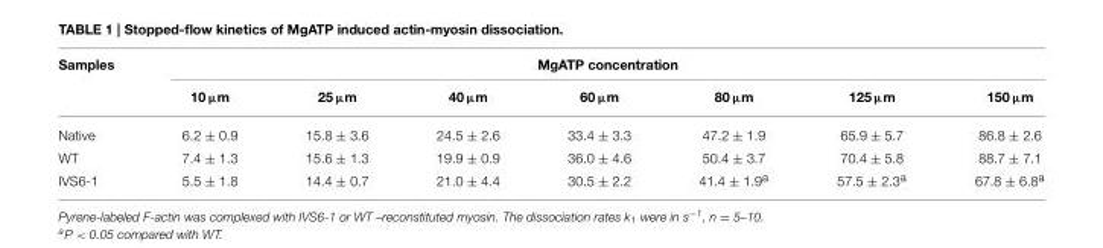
<table><thead><tr><td rowspan="2">Samples</td><td colspan="7">MgATP concentration</td></tr><tr><td>10 µm</td><td>25 µm</td><td>40 µm</td><td>60 µm</td><td>80 µm</td><td>125 µm</td><td>150 µm</td></tr></thead><tbody><tr><td>Native</td><td>6.2 ± 0.9</td><td>15.8 ± 3.6</td><td>24.5 ± 2.6</td><td>33.4 ± 3.3</td><td>47.2 ± 1.9</td><td>65.9 ± 5.7</td><td>86.8 ± 2.6</td></tr><tr><td>WT</td><td>7.4 ± 1.3</td><td>15.6 ± 1.3</td><td>19.9 ± 0.9</td><td>36.0 ± 4.6</td><td>50.4 ± 3.7</td><td>70.4 ± 5.8</td><td>88.7 ± 7.1</td></tr><tr><td>IVS6-1</td><td>5.5 ± 1.8</td><td>14.4 ± 0.7</td><td>21.0 ± 4.4</td><td>30.5 ± 2.2</td><td>41.4 ± 1.9<sup>a</sup></td><td>57.5 ± 2.3<sup>a</sup></td><td>67.8 ± 6.8<sup>a</sup></td></tr></tbody></table>